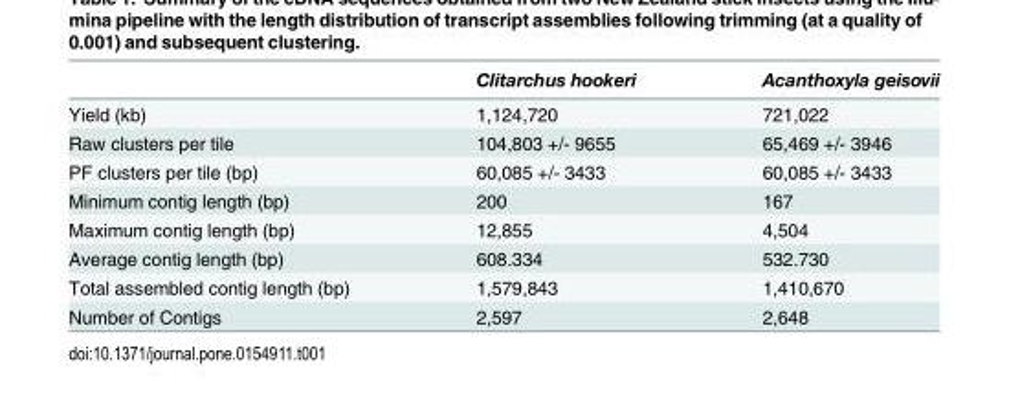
<table><thead><tr><td></td><td>Clitarchus hookeri</td><td>Acanthoxyla geisovii</td></tr></thead><tbody><tr><td>Yield (kb)</td><td>1,124,720</td><td>721,022</td></tr><tr><td>Raw clusters per tile</td><td>104,803 +/- 9655</td><td>65,469 +/- 3946</td></tr><tr><td>PF clusters per tile (bp)</td><td>60,085 +/- 3433</td><td>60,085 +/- 3433</td></tr><tr><td>Minimum contig length (bp)</td><td>200</td><td>167</td></tr><tr><td>Maximum contig length (bp)</td><td>12,855</td><td>4,504</td></tr><tr><td>Average contig length (bp)</td><td>608.334</td><td>532.730</td></tr><tr><td>Total assembled contig length (bp)</td><td>1,579,843</td><td>1,410,670</td></tr><tr><td>Number of Contigs</td><td>2,597</td><td>2,648</td></tr></tbody></table>